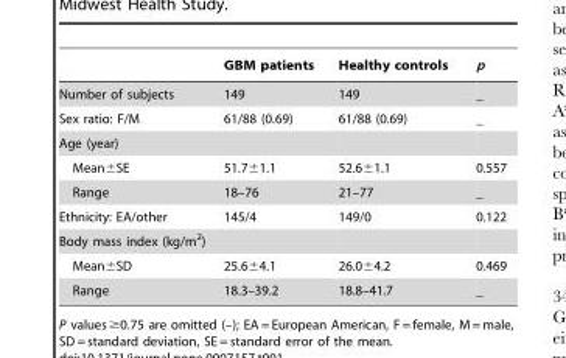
<table><thead><tr><td></td><td>GBM patients</td><td>Healthy controls</td><td>p</td></tr></thead><tbody><tr><td>Number of subjects</td><td>149</td><td>149</td><td>―</td></tr><tr><td>Sex ratio: F/M</td><td>61/88 (0.69)</td><td>61/88 (0.69)</td><td>―</td></tr><tr><td colspan="4">Age (year)</td></tr><tr><td>Mean±SE</td><td>51.7±1.1</td><td>52.6±1.1</td><td>0.557</td></tr><tr><td>Range</td><td>18–76</td><td>21–77</td><td>―</td></tr><tr><td>Ethnicity: EA/other</td><td>145/4</td><td>149/0</td><td>0.122</td></tr><tr><td colspan="4">Body mass index (kg/m<sup>2</sup>)</td></tr><tr><td>Mean±SD</td><td>25.6±4.1</td><td>26.0±4.2</td><td>0.469</td></tr><tr><td>Range</td><td>18.3–39.2</td><td>18.8–41.7</td><td>―</td></tr></tbody></table>